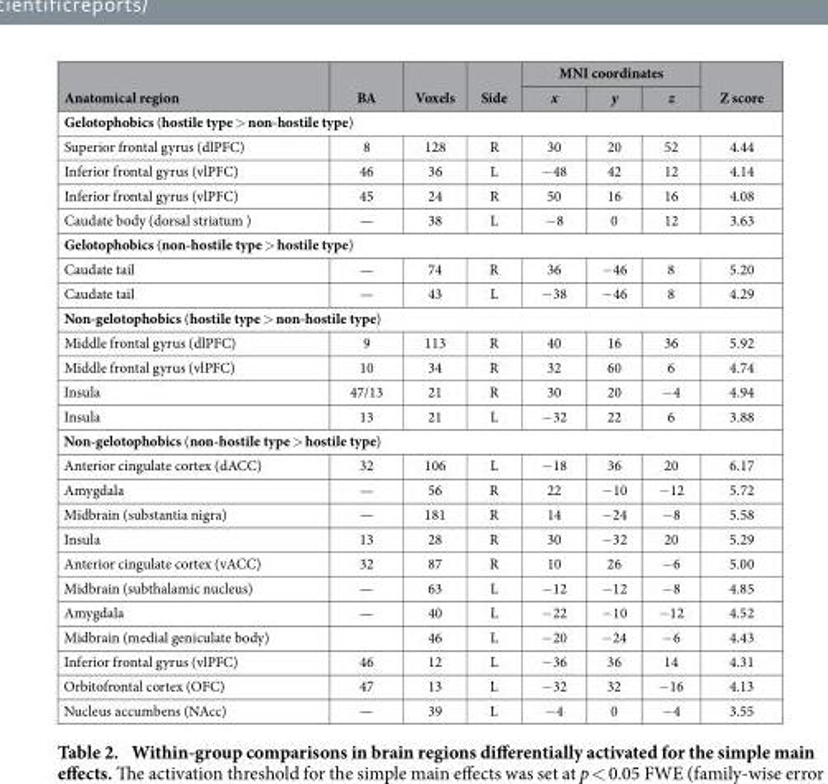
<table><thead><tr><td rowspan="2">Anatomical region</td><td rowspan="2">BA</td><td rowspan="2">Voxels</td><td rowspan="2">Side</td><td colspan="3">MNI coordinates</td><td rowspan="2">Z score</td></tr><tr><td>x</td><td>y</td><td>z</td></tr></thead><tbody><tr><td colspan="8">Gelotophobics (hostile type &gt; non-hostile type)</td></tr><tr><td>Superior frontal gyrus (dlPFC)</td><td>8</td><td>128</td><td>R</td><td>30</td><td>20</td><td>52</td><td>4.44</td></tr><tr><td>Inferior frontal gyrus (vlPFC)</td><td>46</td><td>36</td><td>L</td><td>− 48</td><td>42</td><td>12</td><td>4.14</td></tr><tr><td>Inferior frontal gyrus (vlPFC)</td><td>45</td><td>24</td><td>R</td><td>50</td><td>16</td><td>16</td><td>4.08</td></tr><tr><td>Caudate body (dorsal striatum )</td><td>—</td><td>38</td><td>L</td><td>− 8</td><td>0</td><td>12</td><td>3.63</td></tr><tr><td colspan="8">Gelotophobics (non-hostile type &gt; hostile type)</td></tr><tr><td>Caudate tail</td><td>—</td><td>74</td><td>R</td><td>36</td><td>− 46</td><td>8</td><td>5.20</td></tr><tr><td>Caudate tail</td><td>—</td><td>43</td><td>L</td><td>− 38</td><td>− 46</td><td>8</td><td>4.29</td></tr><tr><td colspan="8">Non-gelotophobics (hostile type &gt; non-hostile type)</td></tr><tr><td>Middle frontal gyrus (dlPFC)</td><td>9</td><td>113</td><td>R</td><td>40</td><td>16</td><td>36</td><td>5.92</td></tr><tr><td>Middle frontal gyrus (vlPFC)</td><td>10</td><td>34</td><td>R</td><td>32</td><td>60</td><td>6</td><td>4.74</td></tr><tr><td>Insula</td><td>47/13</td><td>21</td><td>R</td><td>30</td><td>20</td><td>− 4</td><td>4.94</td></tr><tr><td>Insula</td><td>13</td><td>21</td><td>L</td><td>− 32</td><td>22</td><td>6</td><td>3.88</td></tr><tr><td colspan="8">Non-gelotophobics (non-hostile type &gt; hostile type)</td></tr><tr><td>Anterior cingulate cortex (dACC)</td><td>32</td><td>106</td><td>L</td><td>− 18</td><td>36</td><td>20</td><td>6.17</td></tr><tr><td>Amygdala</td><td>—</td><td>56</td><td>R</td><td>22</td><td>− 10</td><td>− 12</td><td>5.72</td></tr><tr><td>Midbrain (substantia nigra)</td><td>—</td><td>181</td><td>R</td><td>14</td><td>− 24</td><td>− 8</td><td>5.58</td></tr><tr><td>Insula</td><td>13</td><td>28</td><td>R</td><td>30</td><td>− 32</td><td>20</td><td>5.29</td></tr><tr><td>Anterior cingulate cortex (vACC)</td><td>32</td><td>87</td><td>R</td><td>10</td><td>26</td><td>− 6</td><td>5.00</td></tr><tr><td>Midbrain (subthalamic nucleus)</td><td>—</td><td>63</td><td>L</td><td>− 12</td><td>− 12</td><td>− 8</td><td>4.85</td></tr><tr><td>Amygdala</td><td>—</td><td>40</td><td>L</td><td>− 22</td><td>− 10</td><td>− 12</td><td>4.52</td></tr><tr><td>Midbrain (medial geniculate body)</td><td></td><td>46</td><td>L</td><td>− 20</td><td>− 24</td><td>− 6</td><td>4.43</td></tr><tr><td>Inferior frontal gyrus (vlPFC)</td><td>46</td><td>12</td><td>L</td><td>− 36</td><td>36</td><td>14</td><td>4.31</td></tr><tr><td>Orbitofrontal cortex (OFC)</td><td>47</td><td>13</td><td>L</td><td>− 32</td><td>32</td><td>− 16</td><td>4.13</td></tr><tr><td>Nucleus accumbens (NAcc)</td><td>—</td><td>39</td><td>L</td><td>− 4</td><td>0</td><td>− 4</td><td>3.55</td></tr></tbody></table>